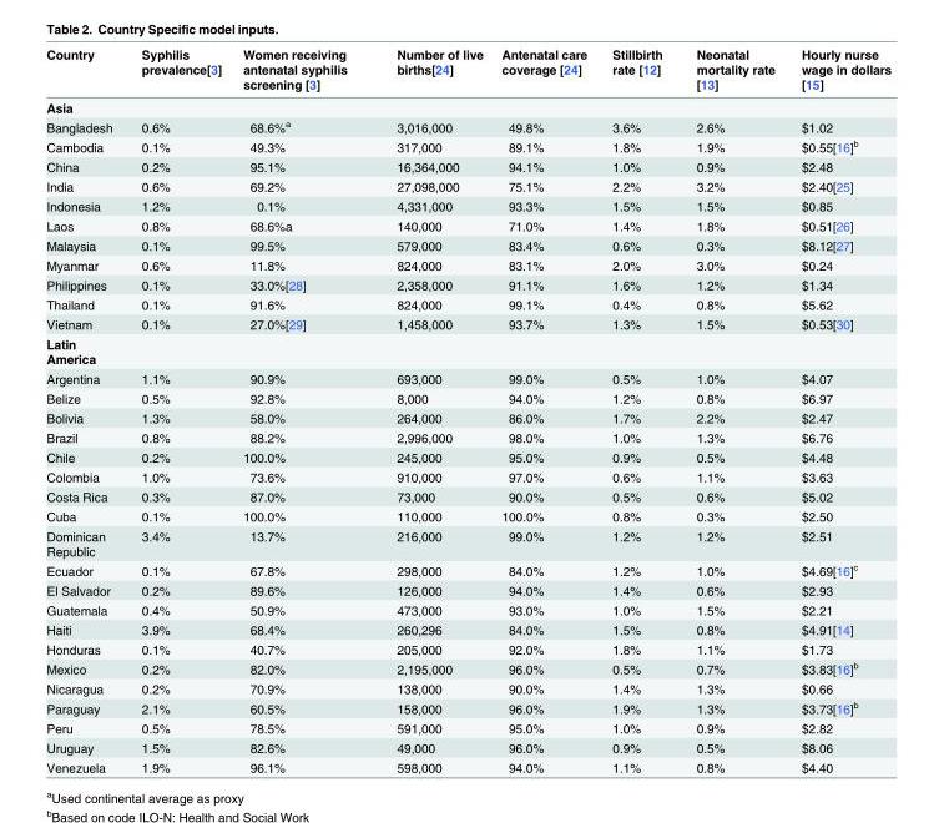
<table><thead><tr><td>Country</td><td>Syphilis prevalence[3]</td><td>Women receiving antenatal syphilis screening [3]</td><td>Number of live births[24]</td><td>Antenatal care coverage [24]</td><td>Stillbirth rate [12]</td><td>Neonatal mortality rate [13]</td><td>Hourly nurse wage in dollars [15]</td></tr></thead><tbody><tr><td colspan="8">Asia</td></tr><tr><td>Bangladesh</td><td>0.6%</td><td>68.6%<sup>a</sup></td><td>3,016,000</td><td>49.8%</td><td>3.6%</td><td>2.6%</td><td>$1.02</td></tr><tr><td>Cambodia</td><td>0.1%</td><td>49.3%</td><td>317,000</td><td>89.1%</td><td>1.8%</td><td>1.9%</td><td>$0.55[16]<sup>b</sup></td></tr><tr><td>China</td><td>0.2%</td><td>95.1%</td><td>16,364,000</td><td>94.1%</td><td>1.0%</td><td>0.9%</td><td>$2.48</td></tr><tr><td>India</td><td>0.6%</td><td>69.2%</td><td>27,098,000</td><td>75.1%</td><td>2.2%</td><td>3.2%</td><td>$2.40[25]</td></tr><tr><td>Indonesia</td><td>1.2%</td><td>0.1%</td><td>4,331,000</td><td>93.3%</td><td>1.5%</td><td>1.5%</td><td>$0.85</td></tr><tr><td>Laos</td><td>0.8%</td><td>68.6%<sup>a</sup></td><td>140,000</td><td>71.0%</td><td>1.4%</td><td>1.8%</td><td>$0.51[26]</td></tr><tr><td>Malaysia</td><td>0.1%</td><td>99.5%</td><td>579,000</td><td>83.4%</td><td>0.6%</td><td>0.3%</td><td>$8.12[27]</td></tr><tr><td>Myanmar</td><td>0.6%</td><td>11.8%</td><td>824,000</td><td>83.1%</td><td>2.0%</td><td>3.0%</td><td>$0.24</td></tr><tr><td>Philippines</td><td>0.1%</td><td>33.0%[28]</td><td>2,358,000</td><td>91.1%</td><td>1.6%</td><td>1.2%</td><td>$1.34</td></tr><tr><td>Thailand</td><td>0.1%</td><td>91.6%</td><td>824,000</td><td>99.1%</td><td>0.4%</td><td>0.8%</td><td>$5.62</td></tr><tr><td>Vietnam</td><td>0.1%</td><td>27.0%[29]</td><td>1,458,000</td><td>93.7%</td><td>1.3%</td><td>1.5%</td><td>$0.53[30]</td></tr><tr><td colspan="8">Latin America</td></tr><tr><td>Argentina</td><td>1.1%</td><td>90.9%</td><td>693,000</td><td>99.0%</td><td>0.5%</td><td>1.0%</td><td>$4.07</td></tr><tr><td>Belize</td><td>0.5%</td><td>92.8%</td><td>8,000</td><td>94.0%</td><td>1.2%</td><td>0.8%</td><td>$6.97</td></tr><tr><td>Bolivia</td><td>1.3%</td><td>58.0%</td><td>264,000</td><td>86.0%</td><td>1.7%</td><td>2.2%</td><td>$2.47</td></tr><tr><td>Brazil</td><td>0.8%</td><td>88.2%</td><td>2,996,000</td><td>98.0%</td><td>1.0%</td><td>1.3%</td><td>$6.76</td></tr><tr><td>Chile</td><td>0.2%</td><td>100.0%</td><td>245,000</td><td>95.0%</td><td>0.9%</td><td>0.5%</td><td>$4.48</td></tr><tr><td>Colombia</td><td>1.0%</td><td>73.6%</td><td>910,000</td><td>97.0%</td><td>0.6%</td><td>1.1%</td><td>$3.63</td></tr><tr><td>Costa Rica</td><td>0.3%</td><td>87.0%</td><td>73,000</td><td>90.0%</td><td>0.5%</td><td>0.6%</td><td>$5.02</td></tr><tr><td>Cuba</td><td>0.1%</td><td>100.0%</td><td>110,000</td><td>100.0%</td><td>0.8%</td><td>0.3%</td><td>$2.50</td></tr><tr><td>Dominican Republic</td><td>3.4%</td><td>13.7%</td><td>216,000</td><td>99.0%</td><td>1.2%</td><td>1.2%</td><td>$2.51</td></tr><tr><td>Ecuador</td><td>0.1%</td><td>67.8%</td><td>298,000</td><td>84.0%</td><td>1.2%</td><td>1.0%</td><td>$4.69[16]<sup>c</sup></td></tr><tr><td>El Salvador</td><td>0.2%</td><td>89.6%</td><td>126,000</td><td>94.0%</td><td>1.4%</td><td>0.6%</td><td>$2.93</td></tr><tr><td>Guatemala</td><td>0.4%</td><td>50.9%</td><td>473,000</td><td>93.0%</td><td>1.0%</td><td>1.5%</td><td>$2.21</td></tr><tr><td>Haiti</td><td>3.9%</td><td>68.4%</td><td>260,296</td><td>84.0%</td><td>1.5%</td><td>0.8%</td><td>$4.91[14]</td></tr><tr><td>Honduras</td><td>0.1%</td><td>40.7%</td><td>205,000</td><td>92.0%</td><td>1.8%</td><td>1.1%</td><td>$1.73</td></tr><tr><td>Mexico</td><td>0.2%</td><td>82.0%</td><td>2,195,000</td><td>96.0%</td><td>0.5%</td><td>0.7%</td><td>$3.83[16]<sup>b</sup></td></tr><tr><td>Nicaragua</td><td>0.2%</td><td>70.9%</td><td>138,000</td><td>90.0%</td><td>1.4%</td><td>1.3%</td><td>$0.66</td></tr><tr><td>Paraguay</td><td>2.1%</td><td>60.5%</td><td>158,000</td><td>96.0%</td><td>1.9%</td><td>1.3%</td><td>$3.73[16]<sup>b</sup></td></tr><tr><td>Peru</td><td>0.5%</td><td>78.5%</td><td>591,000</td><td>95.0%</td><td>1.0%</td><td>0.9%</td><td>$2.82</td></tr><tr><td>Uruguay</td><td>1.5%</td><td>82.6%</td><td>49,000</td><td>96.0%</td><td>0.9%</td><td>0.5%</td><td>$8.06</td></tr><tr><td>Venezuela</td><td>1.9%</td><td>96.1%</td><td>598,000</td><td>94.0%</td><td>1.1%</td><td>0.8%</td><td>$4.40</td></tr></tbody></table>